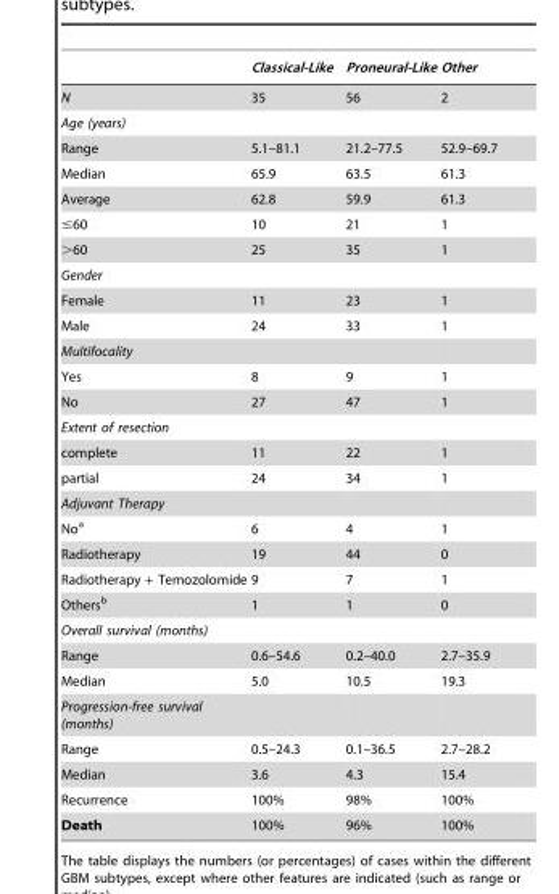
<table><thead><tr><td></td><td>Classical-Like</td><td>Proneural-Like</td><td>Other</td></tr></thead><tbody><tr><td>N</td><td>35</td><td>56</td><td>2</td></tr><tr><td colspan="4">Age (years)</td></tr><tr><td>Range</td><td>5.1–81.1</td><td>21.2–77.5</td><td>52.9–69.7</td></tr><tr><td>Median</td><td>65.9</td><td>63.5</td><td>61.3</td></tr><tr><td>Average</td><td>62.8</td><td>59.9</td><td>61.3</td></tr><tr><td>≤60</td><td>10</td><td>21</td><td>1</td></tr><tr><td>&gt;60</td><td>25</td><td>35</td><td>1</td></tr><tr><td colspan="4">Gender</td></tr><tr><td>Female</td><td>11</td><td>23</td><td>1</td></tr><tr><td>Male</td><td>24</td><td>33</td><td>1</td></tr><tr><td colspan="4">Multifocality</td></tr><tr><td>Yes</td><td>8</td><td>9</td><td>1</td></tr><tr><td>No</td><td>27</td><td>47</td><td>1</td></tr><tr><td colspan="4">Extent of resection</td></tr><tr><td>complete</td><td>11</td><td>22</td><td>1</td></tr><tr><td>partial</td><td>24</td><td>34</td><td>1</td></tr><tr><td colspan="4">Adjuvant Therapy</td></tr><tr><td>No<sup>a</sup></td><td>6</td><td>4</td><td>1</td></tr><tr><td>Radiotherapy</td><td>19</td><td>44</td><td>0</td></tr><tr><td>Radiotherapy + Temozolomide</td><td>9</td><td>7</td><td>1</td></tr><tr><td>Others<sup>b</sup></td><td>1</td><td>1</td><td>0</td></tr><tr><td colspan="4">Overall survival (months)</td></tr><tr><td>Range</td><td>0.6–54.6</td><td>0.2–40.0</td><td>2.7–35.9</td></tr><tr><td>Median</td><td>5.0</td><td>10.5</td><td>19.3</td></tr><tr><td colspan="4">Progression-free survival (months)</td></tr><tr><td>Range</td><td>0.5–24.3</td><td>0.1–36.5</td><td>2.7–28.2</td></tr><tr><td>Median</td><td>3.6</td><td>4.3</td><td>15.4</td></tr><tr><td>Recurrence</td><td>100%</td><td>98%</td><td>100%</td></tr><tr><td>Death</td><td>100%</td><td>96%</td><td>100%</td></tr></tbody></table>